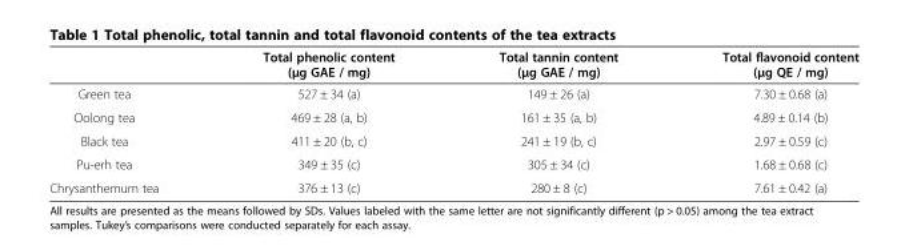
<table><thead><tr><td></td><td>Total phenolic content (μg GAE / mg)</td><td>Total tannin content (μg GAE / mg)</td><td>Total flavonoid content (μg QE / mg)</td></tr></thead><tbody><tr><td>Green tea</td><td>527 ± 34 (a)</td><td>149 ± 26 (a)</td><td>7.30 ± 0.68 (a)</td></tr><tr><td>Oolong tea</td><td>469 ± 28 (a, b)</td><td>161 ± 35 (a, b)</td><td>4.89 ± 0.14 (b)</td></tr><tr><td>Black tea</td><td>411 ± 20 (b, c)</td><td>241 ± 19 (b, c)</td><td>2.97 ± 0.59 (c)</td></tr><tr><td>Pu-erh tea</td><td>349 ± 35 (c)</td><td>305 ± 34 (c)</td><td>1.68 ± 0.68 (c)</td></tr><tr><td>Chrysanthemum tea</td><td>376 ± 13 (c)</td><td>280 ± 8 (c)</td><td>7.61 ± 0.42 (a)</td></tr></tbody></table>